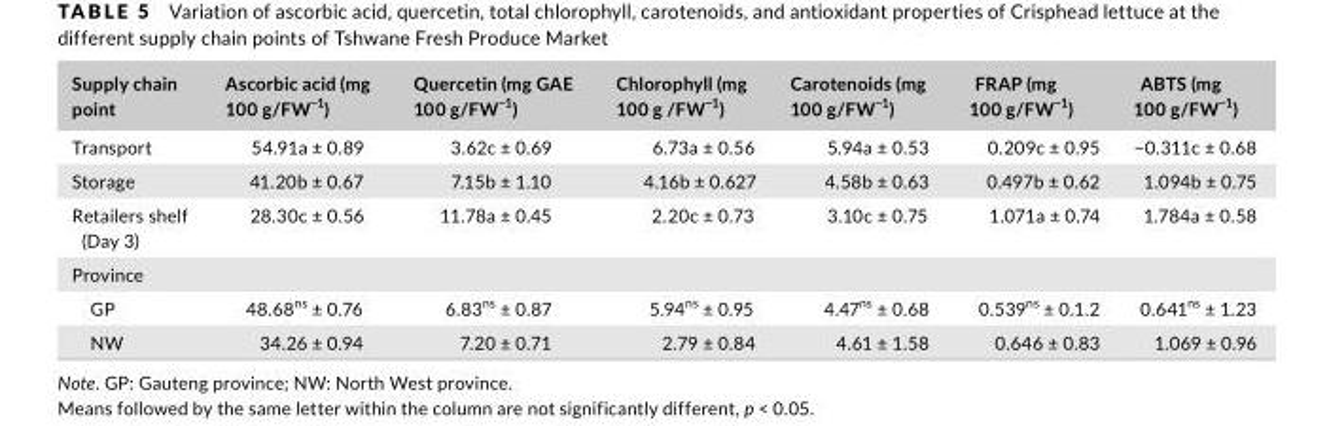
<table><thead><tr><td>Supply chain point</td><td>Ascorbic acid (mg 100 g/FW<sup>−1</sup>)</td><td>Quercetin (mg GAE 100 g/FW<sup>−1</sup>)</td><td>Chlorophyll (mg 100 g /FW<sup>−1</sup>)</td><td>Carotenoids (mg 100 g/FW<sup>−1</sup>)</td><td>FRAP (mg 100 g/FW<sup>−1</sup>)</td><td>ABTS (mg 100 g/FW<sup>−1</sup>)</td></tr></thead><tbody><tr><td>Transport</td><td>54.91a ± 0.89</td><td>3.62c ± 0.69</td><td>6.73a ± 0.56</td><td>5.94a ± 0.53</td><td>0.209c ± 0.95</td><td>−0.311c ± 0.68</td></tr><tr><td>Storage</td><td>41.20b ± 0.67</td><td>7.15b ± 1.10</td><td>4.16b ± 0.627</td><td>4.58b ± 0.63</td><td>0.497b ± 0.62</td><td>1.094b ± 0.75</td></tr><tr><td>Retailers shelf (Day 3)</td><td>28.30c ± 0.56</td><td>11.78a ± 0.45</td><td>2.20c ± 0.73</td><td>3.10c ± 0.75</td><td>1.071a ± 0.74</td><td>1.784a ± 0.58</td></tr><tr><td colspan="7">Province</td></tr><tr><td>GP</td><td>48.68<sup>ns</sup> ± 0.76</td><td>6.83<sup>ns</sup> ± 0.87</td><td>5.94<sup>ns</sup> ± 0.95</td><td>4.47<sup>ns</sup> ± 0.68</td><td>0.539<sup>ns</sup> ± 0.1.2</td><td>0.641<sup>ns</sup> ± 1.23</td></tr><tr><td>NW</td><td>34.26 ± 0.94</td><td>7.20 ± 0.71</td><td>2.79 ± 0.84</td><td>4.61 ± 1.58</td><td>0.646 ± 0.83</td><td>1.069 ± 0.96</td></tr></tbody></table>